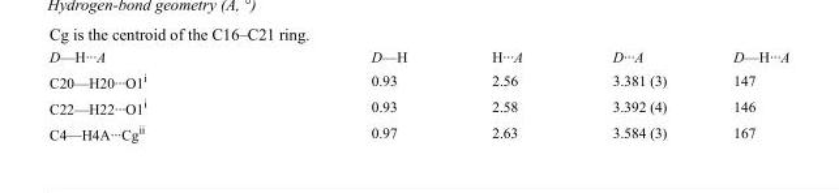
<table><tbody><tr><td>D—H···A</td><td>D—H</td><td>H···A</td><td>D···A</td><td>D—H···A</td></tr><tr><td>C20—H20···O1<sup>i</sup></td><td>0.93</td><td>2.56</td><td>3.381 (3)</td><td>147</td></tr><tr><td>C22—H22···O1<sup>i</sup></td><td>0.93</td><td>2.58</td><td>3.392 (4)</td><td>146</td></tr><tr><td>C4—H4A···Cg<sup>ii</sup></td><td>0.97</td><td>2.63</td><td>3.584 (3)</td><td>167</td></tr></tbody></table>